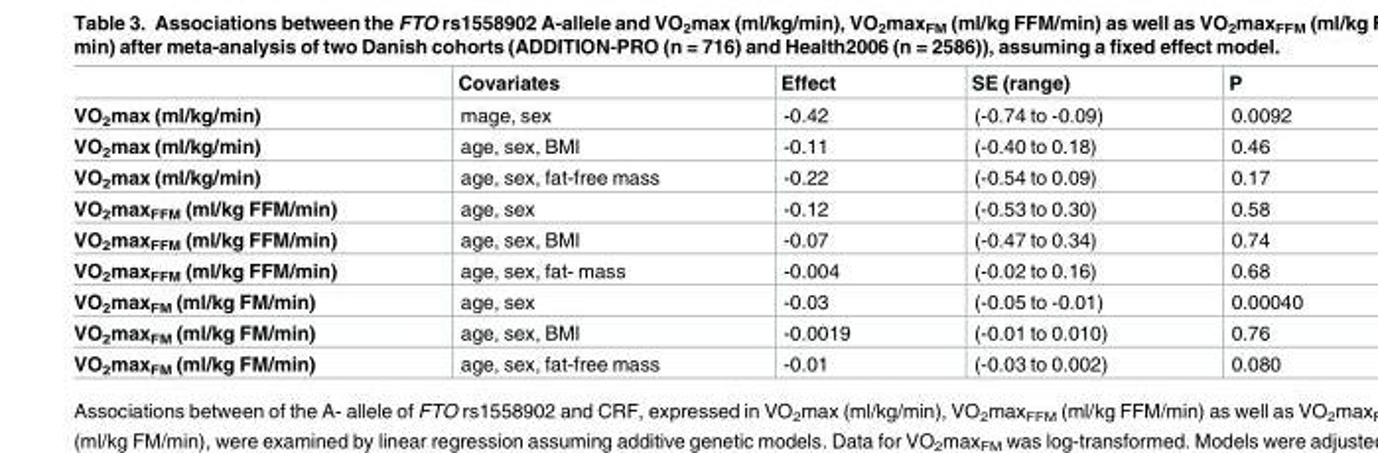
<table><thead><tr><td></td><td>Covariates</td><td>Effect</td><td>SE (range)</td><td>P</td></tr></thead><tbody><tr><td>VO<sub>2</sub>max (ml/kg/min)</td><td>mage, sex</td><td>-0.42</td><td>(-0.74 to -0.09)</td><td>0.0092</td></tr><tr><td>VO<sub>2</sub>max (ml/kg/min)</td><td>age, sex, BMI</td><td>-0.11</td><td>(-0.40 to 0.18)</td><td>0.46</td></tr><tr><td>VO<sub>2</sub>max (ml/kg/min)</td><td>age, sex, fat-free mass</td><td>-0.22</td><td>(-0.54 to 0.09)</td><td>0.17</td></tr><tr><td>VO<sub>2</sub>max<sub>FFM</sub> (ml/kg FFM/min)</td><td>age, sex</td><td>-0.12</td><td>(-0.53 to 0.30)</td><td>0.58</td></tr><tr><td>VO<sub>2</sub>max<sub>FFM</sub> (ml/kg FFM/min)</td><td>age, sex, BMI</td><td>-0.07</td><td>(-0.47 to 0.34)</td><td>0.74</td></tr><tr><td>VO<sub>2</sub>max<sub>FFM</sub> (ml/kg FFM/min)</td><td>age, sex, fat- mass</td><td>-0.004</td><td>(-0.02 to 0.16)</td><td>0.68</td></tr><tr><td>VO<sub>2</sub>max<sub>FM</sub> (ml/kg FM/min)</td><td>age, sex</td><td>-0.03</td><td>(-0.05 to -0.01)</td><td>0.00040</td></tr><tr><td>VO<sub>2</sub>max<sub>FM</sub> (ml/kg FM/min)</td><td>age, sex, BMI</td><td>-0.0019</td><td>(-0.01 to 0.010)</td><td>0.76</td></tr><tr><td>VO<sub>2</sub>max<sub>FM</sub> (ml/kg FM/min)</td><td>age, sex, fat-free mass</td><td>-0.01</td><td>(-0.03 to 0.002)</td><td>0.080</td></tr></tbody></table>